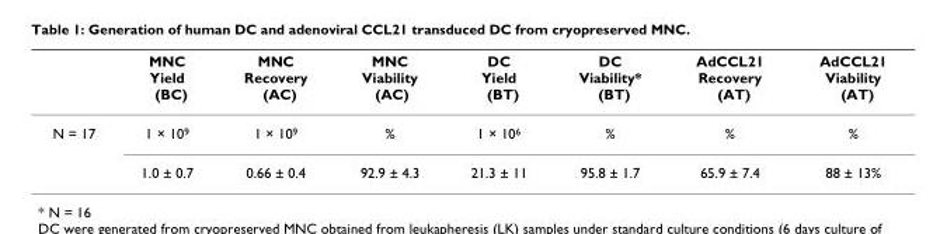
<table><thead><tr><td></td><td>MNC Yield (BC)</td><td>MNC Recovery (AC)</td><td>MNC Viability (AC)</td><td>DC Yield (BT)</td><td>DC Viability* (BT)</td><td>AdCCL21 Recovery (AT)</td><td>AdCCL21 Viability (AT)</td></tr></thead><tbody><tr><td rowspan="2">N = 17</td><td>1 × 10<sup>9</sup></td><td>1 × 10<sup>9</sup></td><td>%</td><td>1 × 10<sup>6</sup></td><td>%</td><td>%</td><td>%</td></tr><tr><td>1.0 ± 0.7</td><td>0.66 ± 0.4</td><td>92.9 ± 4.3</td><td>21.3 ± 11</td><td>95.8 ± 1.7</td><td>65.9 ± 7.4</td><td>88 ± 13%</td></tr></tbody></table>